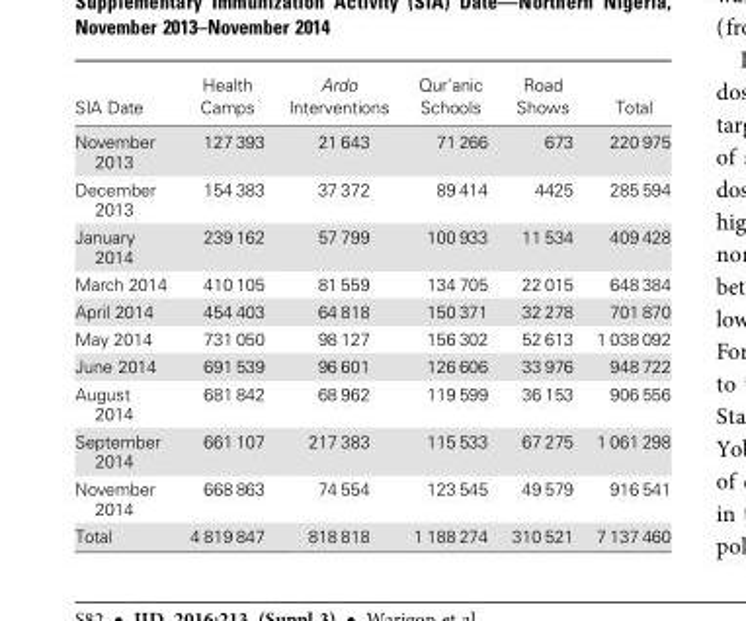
<table><thead><tr><td>SIA Date</td><td>Health Camps</td><td>Ardo Interventions</td><td>Qur’anic Schools</td><td>Road Shows</td><td>Total</td></tr></thead><tbody><tr><td>November 2013</td><td>127 393</td><td>21 643</td><td>71 266</td><td>673</td><td>220 975</td></tr><tr><td>December 2013</td><td>154 383</td><td>37 372</td><td>89 414</td><td>4425</td><td>285 594</td></tr><tr><td>January 2014</td><td>239 162</td><td>57 799</td><td>100 933</td><td>11 534</td><td>409 428</td></tr><tr><td>March 2014</td><td>410 105</td><td>81 559</td><td>134 705</td><td>22 015</td><td>648 384</td></tr><tr><td>April 2014</td><td>454 403</td><td>64 818</td><td>150 371</td><td>32 278</td><td>701 870</td></tr><tr><td>May 2014</td><td>731 050</td><td>98 127</td><td>156 302</td><td>52 613</td><td>1 038 092</td></tr><tr><td>June 2014</td><td>691 539</td><td>96 601</td><td>126 606</td><td>33 976</td><td>948 722</td></tr><tr><td>August 2014</td><td>681 842</td><td>68 962</td><td>119 599</td><td>36 153</td><td>906 556</td></tr><tr><td>September 2014</td><td>661 107</td><td>217 383</td><td>115 533</td><td>67 275</td><td>1 061 298</td></tr><tr><td>November 2014</td><td>668 863</td><td>74 554</td><td>123 545</td><td>49 579</td><td>916 541</td></tr><tr><td>Total</td><td>4 819 847</td><td>818 818</td><td>1 188 274</td><td>310 521</td><td>7 137 460</td></tr></tbody></table>